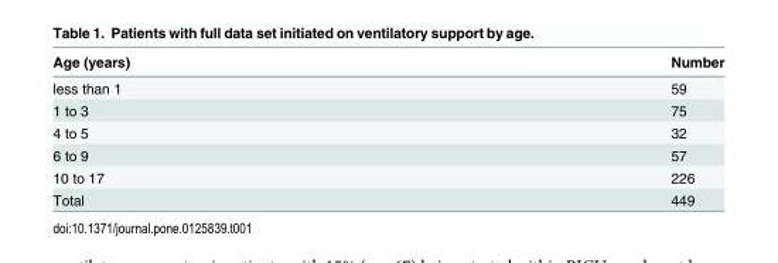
<table><thead><tr><td>Age (years)</td><td>Number</td></tr></thead><tbody><tr><td>less than 1</td><td>59</td></tr><tr><td>1 to 3</td><td>75</td></tr><tr><td>4 to 5</td><td>32</td></tr><tr><td>6 to 9</td><td>57</td></tr><tr><td>10 to 17</td><td>226</td></tr><tr><td>Total</td><td>449</td></tr></tbody></table>